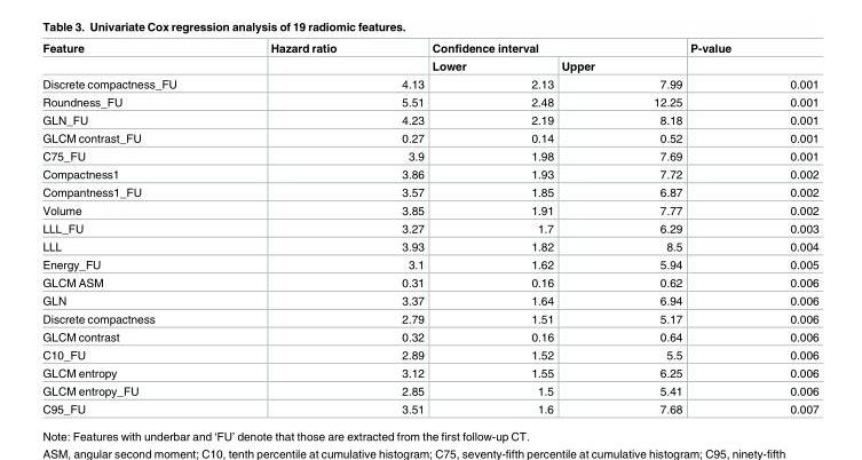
<table><thead><tr><td rowspan="2">Feature</td><td rowspan="2">Hazard ratio</td><td colspan="2">Confidence interval</td><td rowspan="2">P-value</td></tr><tr><td>Lower</td><td>Upper</td></tr></thead><tbody><tr><td>Discrete compactness_FU</td><td>4.13</td><td>2.13</td><td>7.99</td><td>0.001</td></tr><tr><td>Roundness_FU</td><td>5.51</td><td>2.48</td><td>12.25</td><td>0.001</td></tr><tr><td>GLN_FU</td><td>4.23</td><td>2.19</td><td>8.18</td><td>0.001</td></tr><tr><td>GLCM contrast_FU</td><td>0.27</td><td>0.14</td><td>0.52</td><td>0.001</td></tr><tr><td>C75_FU</td><td>3.9</td><td>1.98</td><td>7.69</td><td>0.001</td></tr><tr><td>Compactness1</td><td>3.86</td><td>1.93</td><td>7.72</td><td>0.002</td></tr><tr><td>Compantness1_FU</td><td>3.57</td><td>1.85</td><td>6.87</td><td>0.002</td></tr><tr><td>Volume</td><td>3.85</td><td>1.91</td><td>7.77</td><td>0.002</td></tr><tr><td>LLL_FU</td><td>3.27</td><td>1.7</td><td>6.29</td><td>0.003</td></tr><tr><td>LLL</td><td>3.93</td><td>1.82</td><td>8.5</td><td>0.004</td></tr><tr><td>Energy_FU</td><td>3.1</td><td>1.62</td><td>5.94</td><td>0.005</td></tr><tr><td>GLCM ASM</td><td>0.31</td><td>0.16</td><td>0.62</td><td>0.006</td></tr><tr><td>GLN</td><td>3.37</td><td>1.64</td><td>6.94</td><td>0.006</td></tr><tr><td>Discrete compactness</td><td>2.79</td><td>1.51</td><td>5.17</td><td>0.006</td></tr><tr><td>GLCM contrast</td><td>0.32</td><td>0.16</td><td>0.64</td><td>0.006</td></tr><tr><td>C10_FU</td><td>2.89</td><td>1.52</td><td>5.5</td><td>0.006</td></tr><tr><td>GLCM entropy</td><td>3.12</td><td>1.55</td><td>6.25</td><td>0.006</td></tr><tr><td>GLCM entropy_FU</td><td>2.85</td><td>1.5</td><td>5.41</td><td>0.006</td></tr><tr><td>C95_FU</td><td>3.51</td><td>1.6</td><td>7.68</td><td>0.007</td></tr></tbody></table>